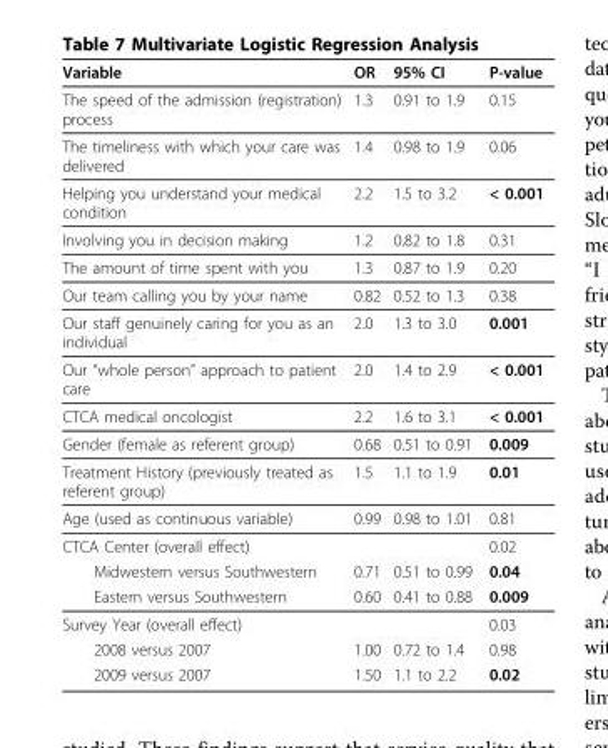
<table><thead><tr><td>Variable</td><td>OR</td><td>95% CI</td><td>P-value</td></tr></thead><tbody><tr><td>The speed of the admission (registration) process</td><td>1.3</td><td>0.91 to 1.9</td><td>0.15</td></tr><tr><td>The timeliness with which your care was delivered</td><td>1.4</td><td>0.98 to 1.9</td><td>0.06</td></tr><tr><td>Helping you understand your medical condition</td><td>2.2</td><td>1.5 to 3.2</td><td>&lt; 0.001</td></tr><tr><td>Involving you in decision making</td><td>1.2</td><td>0.82 to 1.8</td><td>0.31</td></tr><tr><td>The amount of time spent with you</td><td>1.3</td><td>0.87 to 1.9</td><td>0.20</td></tr><tr><td>Our team calling you by your name</td><td>0.82</td><td>0.52 to 1.3</td><td>0.38</td></tr><tr><td>Our staff genuinely caring for you as an individual</td><td>2.0</td><td>1.3 to 3.0</td><td>0.001</td></tr><tr><td>Our “whole person” approach to patient care</td><td>2.0</td><td>1.4 to 2.9</td><td>&lt; 0.001</td></tr><tr><td>CTCA medical oncologist</td><td>2.2</td><td>1.6 to 3.1</td><td>&lt; 0.001</td></tr><tr><td>Gender (female as referent group)</td><td>0.68</td><td>0.51 to 0.91</td><td>0.009</td></tr><tr><td>Treatment History (previously treated as referent group)</td><td>1.5</td><td>1.1 to 1.9</td><td>0.01</td></tr><tr><td>Age (used as continuous variable)</td><td>0.99</td><td>0.98 to 1.01</td><td>0.81</td></tr><tr><td>CTCA Center (overall effect)</td><td></td><td></td><td>0.02</td></tr><tr><td>Midwestern versus Southwestern</td><td>0.71</td><td>0.51 to 0.99</td><td>0.04</td></tr><tr><td>Eastern versus Southwestern</td><td>0.60</td><td>0.41 to 0.88</td><td>0.009</td></tr><tr><td>Survey Year (overall effect)</td><td></td><td></td><td>0.03</td></tr><tr><td>2008 versus 2007</td><td>1.00</td><td>0.72 to 1.4</td><td>0.98</td></tr><tr><td>2009 versus 2007</td><td>1.50</td><td>1.1 to 2.2</td><td>0.02</td></tr></tbody></table>